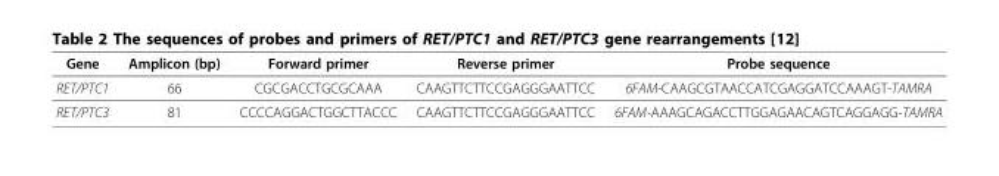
<table><thead><tr><td>Gene</td><td>Amplicon (bp)</td><td>Forward primer</td><td>Reverse primer</td><td>Probe sequence</td></tr></thead><tbody><tr><td>RET/PTC1</td><td>66</td><td>CGCGACCTGCGCAAA</td><td>CAAGTTCTTCCGAGGGAATTCC</td><td>6FAM-CAAGCGTAACCATCGAGGATCCAAAGT-TAMRA</td></tr><tr><td>RET/PTC3</td><td>81</td><td>CCCCAGGACTGGCTTACCC</td><td>CAAGTTCTTCCGAGGGAATTCC</td><td>6FAM-AAAGCAGACCTTGGAGAACAGTCAGGAGG-TAMRA</td></tr></tbody></table>